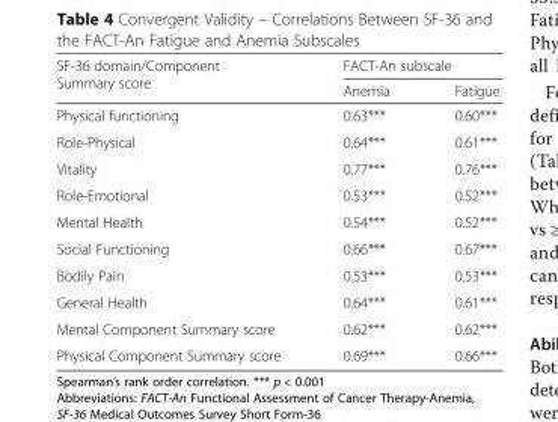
<table><thead><tr><td rowspan="2">SF-36 domain/Component Summary score</td><td colspan="2">FACT-An subscale</td></tr><tr><td>Anemia</td><td>Fatigue</td></tr></thead><tbody><tr><td>Physical functioning</td><td>0.63***</td><td>0.60***</td></tr><tr><td>Role-Physical</td><td>0.64***</td><td>0.61***</td></tr><tr><td>Vitality</td><td>0.77***</td><td>0.76***</td></tr><tr><td>Role-Emotional</td><td>0.53***</td><td>0.52***</td></tr><tr><td>Mental Health</td><td>0.54***</td><td>0.52***</td></tr><tr><td>Social Functioning</td><td>0.66***</td><td>0.67***</td></tr><tr><td>Bodily Pain</td><td>0.53***</td><td>0.53***</td></tr><tr><td>General Health</td><td>0.64***</td><td>0.61***</td></tr><tr><td>Mental Component Summary score</td><td>0.62***</td><td>0.62***</td></tr><tr><td>Physical Component Summary score</td><td>0.69***</td><td>0.66***</td></tr></tbody></table>